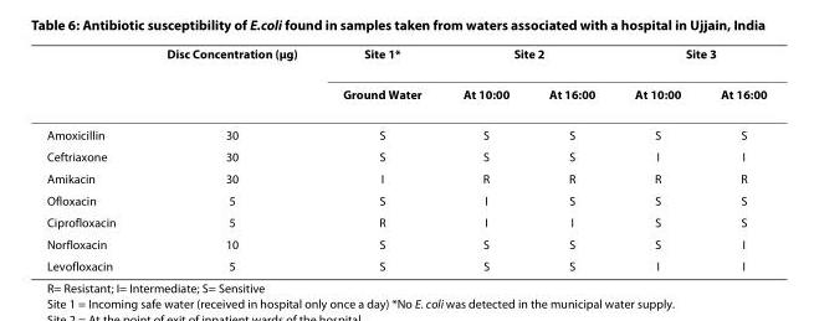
<table><thead><tr><td rowspan="2"></td><td rowspan="2">Disc Concentration (μg)</td><td rowspan="2">Site 1* Ground Water</td><td colspan="2">Site 2</td><td colspan="2">Site 3</td></tr><tr><td>At 10:00</td><td>At 16:00</td><td>At 10:00</td><td>At 16:00</td></tr></thead><tbody><tr><td>Amoxicillin</td><td>30</td><td>S</td><td>S</td><td>S</td><td>S</td><td>S</td></tr><tr><td>Ceftriaxone</td><td>30</td><td>S</td><td>S</td><td>S</td><td>I</td><td>I</td></tr><tr><td>Amikacin</td><td>30</td><td>I</td><td>R</td><td>R</td><td>R</td><td>R</td></tr><tr><td>Ofloxacin</td><td>5</td><td>S</td><td>I</td><td>S</td><td>S</td><td>S</td></tr><tr><td>Ciprofloxacin</td><td>5</td><td>R</td><td>I</td><td>I</td><td>S</td><td>S</td></tr><tr><td>Norfloxacin</td><td>10</td><td>S</td><td>S</td><td>S</td><td>S</td><td>I</td></tr><tr><td>Levofloxacin</td><td>5</td><td>S</td><td>S</td><td>S</td><td>I</td><td>I</td></tr></tbody></table>